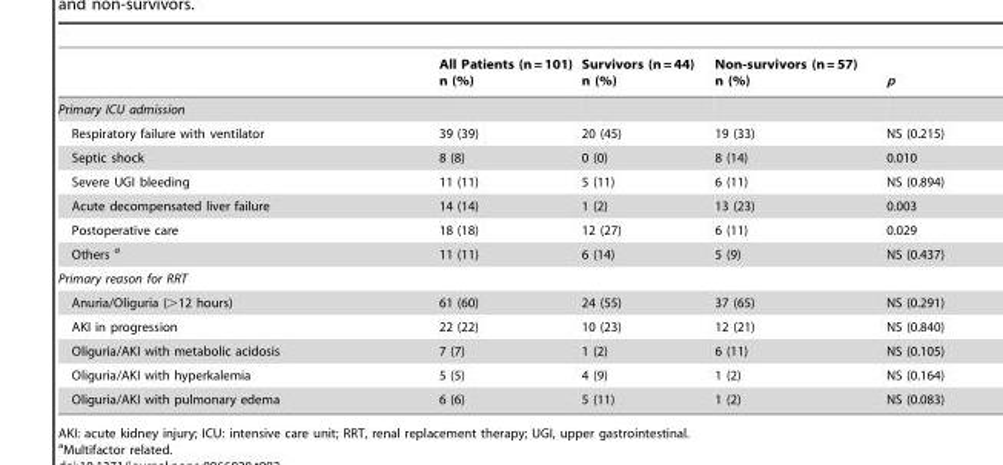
<table><thead><tr><td></td><td>All Patients (n = 101) n (%)</td><td>Survivors (n = 44) n (%)</td><td>Non-survivors (n = 57) n (%)</td><td>p</td></tr></thead><tbody><tr><td colspan="5">Primary ICU admission</td></tr><tr><td>Respiratory failure with ventilator</td><td>39 (39)</td><td>20 (45)</td><td>19 (33)</td><td>NS (0.215)</td></tr><tr><td>Septic shock</td><td>8 (8)</td><td>0 (0)</td><td>8 (14)</td><td>0.010</td></tr><tr><td>Severe UGI bleeding</td><td>11 (11)</td><td>5 (11)</td><td>6 (11)</td><td>NS (0.894)</td></tr><tr><td>Acute decompensated liver failure</td><td>14 (14)</td><td>1 (2)</td><td>13 (23)</td><td>0.003</td></tr><tr><td>Postoperative care</td><td>18 (18)</td><td>12 (27)</td><td>6 (11)</td><td>0.029</td></tr><tr><td>Others a</td><td>11 (11)</td><td>6 (14)</td><td>5 (9)</td><td>NS (0.437)</td></tr><tr><td colspan="5">Primary reason for RRT</td></tr><tr><td>Anuria/Oliguria (&gt;12 hours)</td><td>61 (60)</td><td>24 (55)</td><td>37 (65)</td><td>NS (0.291)</td></tr><tr><td>AKI in progression</td><td>22 (22)</td><td>10 (23)</td><td>12 (21)</td><td>NS (0.840)</td></tr><tr><td>Oliguria/AKI with metabolic acidosis</td><td>7 (7)</td><td>1 (2)</td><td>6 (11)</td><td>NS (0.105)</td></tr><tr><td>Oliguria/AKI with hyperkalemia</td><td>5 (5)</td><td>4 (9)</td><td>1 (2)</td><td>NS (0.164)</td></tr><tr><td>Oliguria/AKI with pulmonary edema</td><td>6 (6)</td><td>5 (11)</td><td>1 (2)</td><td>NS (0.083)</td></tr></tbody></table>